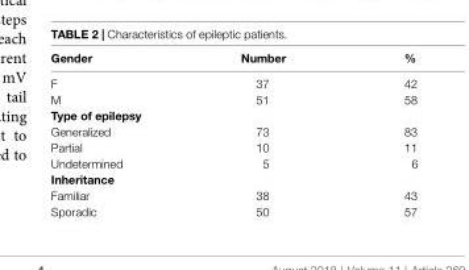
<table><thead><tr><td>Gender</td><td>Number</td><td>%</td></tr></thead><tbody><tr><td>F</td><td>37</td><td>42</td></tr><tr><td>M</td><td>51</td><td>58</td></tr><tr><td colspan="3">Type of epilepsy</td></tr><tr><td>Generalized</td><td>73</td><td>83</td></tr><tr><td>Partial</td><td>10</td><td>11</td></tr><tr><td>Undetermined</td><td>5</td><td>6</td></tr><tr><td colspan="3">Inheritance</td></tr><tr><td>Familiar</td><td>38</td><td>43</td></tr><tr><td>Sporadic</td><td>50</td><td>57</td></tr></tbody></table>